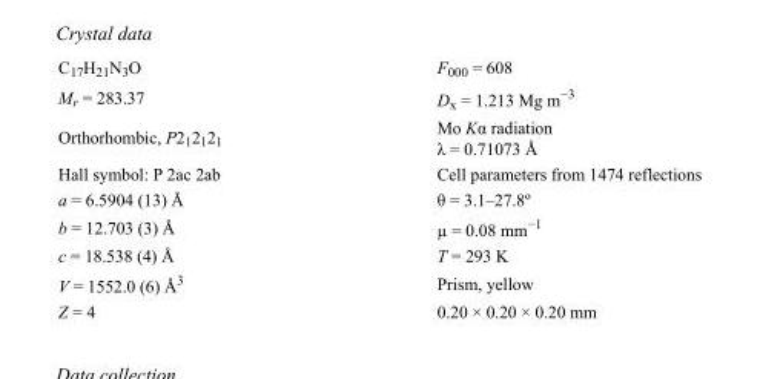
<table><tbody><tr><td>C<sub>17</sub>H<sub>21</sub>N<sub>3</sub>O</td><td>F000 = 608</td></tr><tr><td>M<sub>r</sub> = 283.37</td><td>D<sub>x</sub> = 1.213 Mg m<sup>−3</sup></td></tr><tr><td>Orthorhombic, P2<sub>1</sub>2<sub>1</sub>2<sub>1</sub></td><td>Mo Kα radiation λ = 0.71073 Å</td></tr><tr><td>Hall symbol: P 2ac 2ab</td><td>Cell parameters from 1474 reflections</td></tr><tr><td>a = 6.5904 (13) Å</td><td>θ = 3.1–27.8º</td></tr><tr><td>b = 12.703 (3) Å</td><td>µ = 0.08 mm<sup>−1</sup></td></tr><tr><td>c = 18.538 (4) Å</td><td>T = 293 K</td></tr><tr><td>V = 1552.0 (6) Å<sup>3</sup></td><td>Prism, yellow</td></tr><tr><td>Z = 4</td><td>0.20 × 0.20 × 0.20 mm</td></tr></tbody></table>